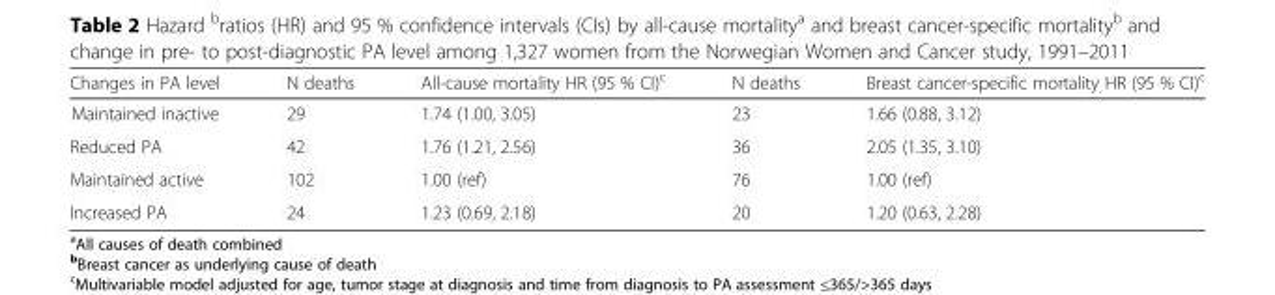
<table><thead><tr><td>Changes in PA level</td><td>N deaths</td><td>All-cause mortality HR (95 % CI)<sup>c</sup></td><td>N deaths</td><td>Breast cancer-specific mortality HR (95 % CI)<sup>c</sup></td></tr></thead><tbody><tr><td>Maintained inactive</td><td>29</td><td>1.74 (1.00, 3.05)</td><td>23</td><td>1.66 (0.88, 3.12)</td></tr><tr><td>Reduced PA</td><td>42</td><td>1.76 (1.21, 2.56)</td><td>36</td><td>2.05 (1.35, 3.10)</td></tr><tr><td>Maintained active</td><td>102</td><td>1.00 (ref)</td><td>76</td><td>1.00 (ref)</td></tr><tr><td>Increased PA</td><td>24</td><td>1.23 (0.69, 2.18)</td><td>20</td><td>1.20 (0.63, 2.28)</td></tr></tbody></table>